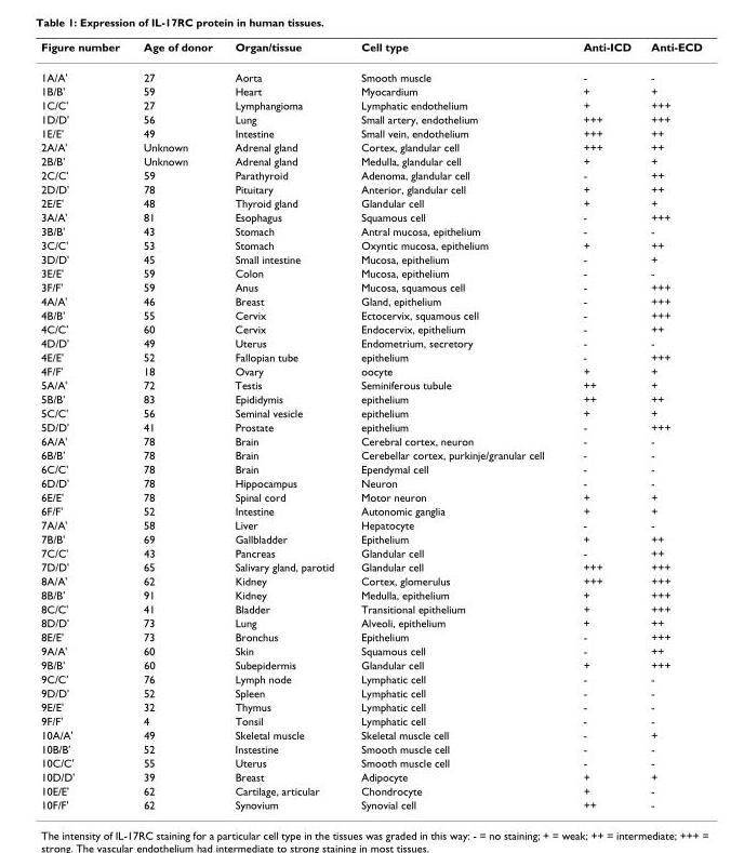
<table><thead><tr><td>Figure number</td><td>Age of donor</td><td>Organ/tissue</td><td>Cell type</td><td>Anti-ICD</td><td>Anti-ECD</td></tr></thead><tbody><tr><td>1A/A&#x27;</td><td>27</td><td>Aorta</td><td>Smooth muscle</td><td>-</td><td>-</td></tr><tr><td>1B/B&#x27;</td><td>59</td><td>Heart</td><td>Myocardium</td><td>+</td><td>+</td></tr><tr><td>1C/C&#x27;</td><td>27</td><td>Lymphangioma</td><td>Lymphatic endothelium</td><td>+</td><td>+++</td></tr><tr><td>1D/D&#x27;</td><td>56</td><td>Lung</td><td>Small artery, endothelium</td><td>+++</td><td>+++</td></tr><tr><td>1E/E&#x27;</td><td>49</td><td>Intestine</td><td>Small vein, endothelium</td><td>+++</td><td>++</td></tr><tr><td>2A/A&#x27;</td><td>Unknown</td><td>Adrenal gland</td><td>Cortex, glandular cell</td><td>+++</td><td>++</td></tr><tr><td>2B/B&#x27;</td><td>Unknown</td><td>Adrenal gland</td><td>Medulla, glandular cell</td><td>+</td><td>+</td></tr><tr><td>2C/C&#x27;</td><td>59</td><td>Parathyroid</td><td>Adenoma, glandular cell</td><td>-</td><td>++</td></tr><tr><td>2D/D&#x27;</td><td>78</td><td>Pituitary</td><td>Anterior, glandular cell</td><td>+</td><td>++</td></tr><tr><td>2E/E&#x27;</td><td>48</td><td>Thyroid gland</td><td>Glandular cell</td><td>+</td><td>+</td></tr><tr><td>3A/A&#x27;</td><td>81</td><td>Esophagus</td><td>Squamous cell</td><td>-</td><td>+++</td></tr><tr><td>3B/B&#x27;</td><td>43</td><td>Stomach</td><td>Antral mucosa, epithelium</td><td>-</td><td>-</td></tr><tr><td>3C/C&#x27;</td><td>53</td><td>Stomach</td><td>Oxyntic mucosa, epithelium</td><td>+</td><td>++</td></tr><tr><td>3D/D&#x27;</td><td>45</td><td>Small intestine</td><td>Mucosa, epithelium</td><td>-</td><td>+</td></tr><tr><td>3E/E&#x27;</td><td>59</td><td>Colon</td><td>Mucosa, epithelium</td><td>-</td><td>-</td></tr><tr><td>3F/F&#x27;</td><td>59</td><td>Anus</td><td>Mucosa, squamous cell</td><td>-</td><td>+++</td></tr><tr><td>4A/A&#x27;</td><td>46</td><td>Breast</td><td>Gland, epithelium</td><td>-</td><td>+++</td></tr><tr><td>4B/B&#x27;</td><td>55</td><td>Cervix</td><td>Ectocervix, squamous cell</td><td>-</td><td>+++</td></tr><tr><td>4C/C&#x27;</td><td>60</td><td>Cervix</td><td>Endocervix, epithelium</td><td>-</td><td>++</td></tr><tr><td>4D/D&#x27;</td><td>49</td><td>Uterus</td><td>Endometrium, secretory</td><td>-</td><td>-</td></tr><tr><td>4E/E&#x27;</td><td>52</td><td>Fallopian tube</td><td>epithelium</td><td>-</td><td>+++</td></tr><tr><td>4F/F&#x27;</td><td>18</td><td>Ovary</td><td>oocyte</td><td>+</td><td>+</td></tr><tr><td>5A/A&#x27;</td><td>72</td><td>Testis</td><td>Seminiferous tubule</td><td>++</td><td>+</td></tr><tr><td>5B/B&#x27;</td><td>83</td><td>Epididymis</td><td>epithelium</td><td>++</td><td>++</td></tr><tr><td>5C/C&#x27;</td><td>56</td><td>Seminal vesicle</td><td>epithelium</td><td>+</td><td>+</td></tr><tr><td>5D/D&#x27;</td><td>41</td><td>Prostate</td><td>epithelium</td><td>-</td><td>+++</td></tr><tr><td>6A/A&#x27;</td><td>78</td><td>Brain</td><td>Cerebral cortex, neuron</td><td>-</td><td>-</td></tr><tr><td>6B/B&#x27;</td><td>78</td><td>Brain</td><td>Cerebellar cortex, purkinje/granular cell</td><td>-</td><td>-</td></tr><tr><td>6C/C&#x27;</td><td>78</td><td>Brain</td><td>Ependymal cell</td><td>-</td><td>-</td></tr><tr><td>6D/D&#x27;</td><td>78</td><td>Hippocampus</td><td>Neuron</td><td>-</td><td>-</td></tr><tr><td>6E/E&#x27;</td><td>78</td><td>Spinal cord</td><td>Motor neuron</td><td>+</td><td>+</td></tr><tr><td>6F/F&#x27;</td><td>52</td><td>Intestine</td><td>Autonomic ganglia</td><td>+</td><td>+</td></tr><tr><td>7A/A&#x27;</td><td>58</td><td>Liver</td><td>Hepatocyte</td><td>-</td><td>-</td></tr><tr><td>7B/B&#x27;</td><td>69</td><td>Gallbladder</td><td>Epithelium</td><td>+</td><td>++</td></tr><tr><td>7C/C&#x27;</td><td>43</td><td>Pancreas</td><td>Glandular cell</td><td>-</td><td>++</td></tr><tr><td>7D/D&#x27;</td><td>65</td><td>Salivary gland, parotid</td><td>Glandular cell</td><td>+++</td><td>+++</td></tr><tr><td>8A/A&#x27;</td><td>62</td><td>Kidney</td><td>Cortex, glomerulus</td><td>+++</td><td>+++</td></tr><tr><td>8B/B&#x27;</td><td>91</td><td>Kidney</td><td>Medulla, epithelium</td><td>+</td><td>+++</td></tr><tr><td>8C/C&#x27;</td><td>41</td><td>Bladder</td><td>Transitional epithelium</td><td>+</td><td>+++</td></tr><tr><td>8D/D&#x27;</td><td>73</td><td>Lung</td><td>Alveoli, epithelium</td><td>+</td><td>++</td></tr><tr><td>8E/E&#x27;</td><td>73</td><td>Bronchus</td><td>Epithelium</td><td>-</td><td>+++</td></tr><tr><td>9A/A&#x27;</td><td>60</td><td>Skin</td><td>Squamous cell</td><td>-</td><td>++</td></tr><tr><td>9B/B&#x27;</td><td>60</td><td>Subepidermis</td><td>Glandular cell</td><td>+</td><td>+++</td></tr><tr><td>9C/C&#x27;</td><td>76</td><td>Lymph node</td><td>Lymphatic cell</td><td>-</td><td>-</td></tr><tr><td>9D/D&#x27;</td><td>52</td><td>Spleen</td><td>Lymphatic cell</td><td>-</td><td>-</td></tr><tr><td>9E/E&#x27;</td><td>32</td><td>Thymus</td><td>Lymphatic cell</td><td>-</td><td>-</td></tr><tr><td>9F/F&#x27;</td><td>4</td><td>Tonsil</td><td>Lymphatic cell</td><td>-</td><td>-</td></tr><tr><td>10A/A&#x27;</td><td>49</td><td>Skeletal muscle</td><td>Skeletal muscle cell</td><td>-</td><td>+</td></tr><tr><td>10B/B&#x27;</td><td>52</td><td>Instestine</td><td>Smooth muscle cell</td><td>-</td><td>-</td></tr><tr><td>10C/C&#x27;</td><td>55</td><td>Uterus</td><td>Smooth muscle cell</td><td>-</td><td>-</td></tr><tr><td>10D/D&#x27;</td><td>39</td><td>Breast</td><td>Adipocyte</td><td>+</td><td>+</td></tr><tr><td>10E/E&#x27;</td><td>62</td><td>Cartilage, articular</td><td>Chondrocyte</td><td>+</td><td>-</td></tr><tr><td>10F/F&#x27;</td><td>62</td><td>Synovium</td><td>Synovial cell</td><td>++</td><td>-</td></tr></tbody></table>